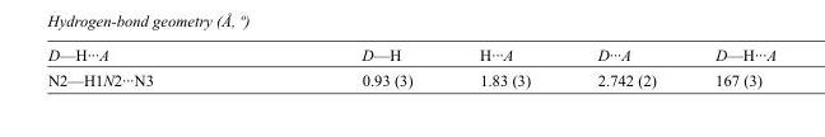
<table><tbody><tr><td>D—H···A</td><td>D—H</td><td>H···A</td><td>D···A</td><td>D—H···A</td></tr><tr><td>N2—H1N2···N3</td><td>0.93 (3)</td><td>1.83 (3)</td><td>2.742 (2)</td><td>167 (3)</td></tr></tbody></table>